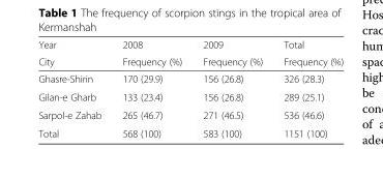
<table><thead><tr><td rowspan="2">Year City</td><td rowspan="2">2008 Frequency (%)</td><td rowspan="2">2009 Frequency (%)</td><td rowspan="2">Total Frequency (%)</td></tr><tr></tr></thead><tbody><tr><td>Ghasre-Shirin</td><td>170 (29.9)</td><td>156 (26.8)</td><td>326 (28.3)</td></tr><tr><td>Gilan-e Gharb</td><td>133 (23.4)</td><td>156 (26.8)</td><td>289 (25.1)</td></tr><tr><td>Sarpol-e Zahab</td><td>265 (46.7)</td><td>271 (46.5)</td><td>536 (46.6)</td></tr><tr><td>Total</td><td>568 (100)</td><td>583 (100)</td><td>1151 (100)</td></tr></tbody></table>